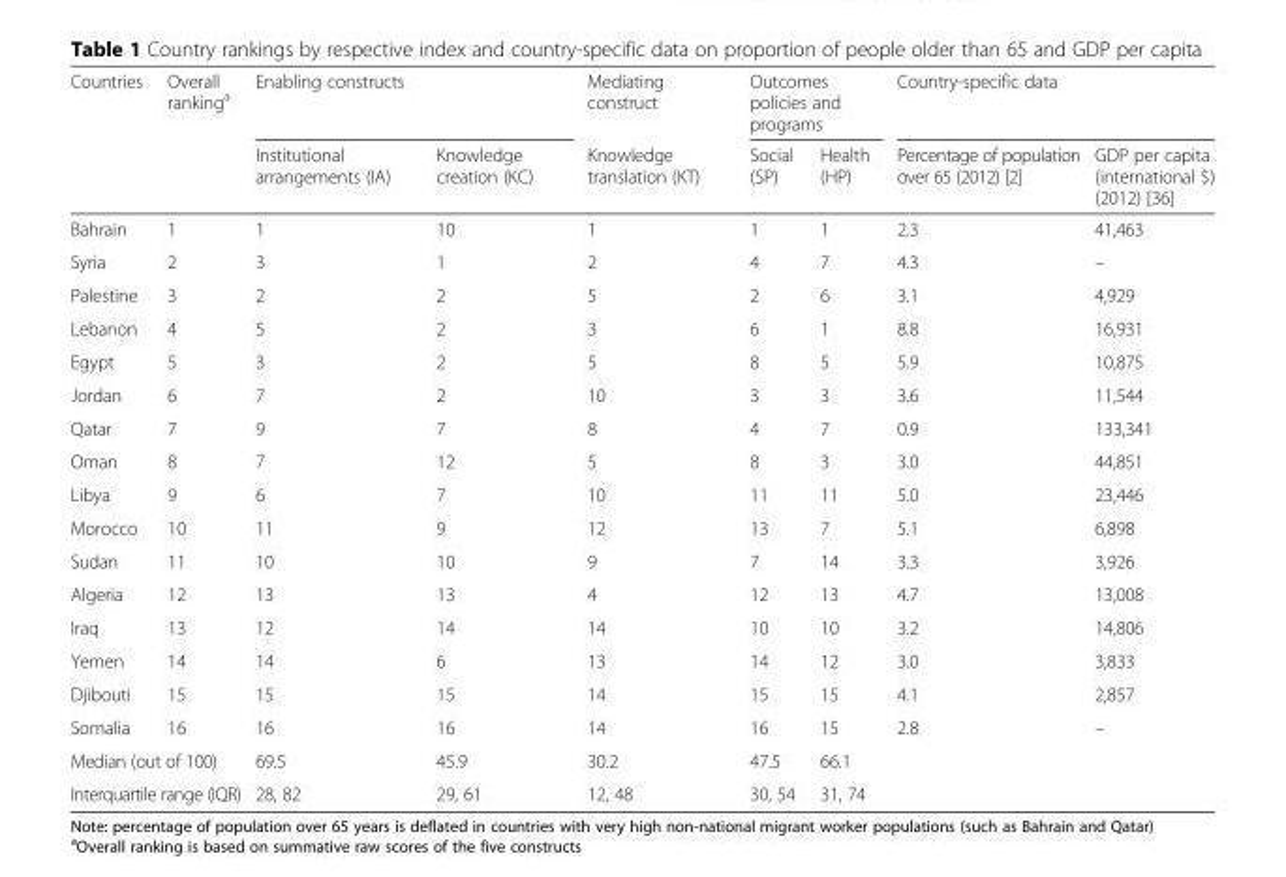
<table><thead><tr><td rowspan="2">Countries</td><td rowspan="2">Overall ranking<sup>a</sup></td><td colspan="2">Enabling constructs</td><td rowspan="2">Mediating construct Knowledge translation (KT)</td><td colspan="2">Outcomes policies and programs</td><td colspan="2">Country-specific data</td></tr><tr><td>Institutional arrangements (IA)</td><td>Knowledge creation (KC)</td><td>Social (SP)</td><td>Health (HP)</td><td>Percentage of population over 65 (2012) [2]</td><td>GDP per capita (international $) (2012) [36]</td></tr></thead><tbody><tr><td>Bahrain</td><td>1</td><td>1</td><td>10</td><td>1</td><td>1</td><td>1</td><td>2.3</td><td>41,463</td></tr><tr><td>Syria</td><td>2</td><td>3</td><td>1</td><td>2</td><td>4</td><td>7</td><td>4.3</td><td>–</td></tr><tr><td>Palestine</td><td>3</td><td>2</td><td>2</td><td>5</td><td>2</td><td>6</td><td>3.1</td><td>4,929</td></tr><tr><td>Lebanon</td><td>4</td><td>5</td><td>2</td><td>3</td><td>6</td><td>1</td><td>8.8</td><td>16,931</td></tr><tr><td>Egypt</td><td>5</td><td>3</td><td>2</td><td>5</td><td>8</td><td>5</td><td>5.9</td><td>10,875</td></tr><tr><td>Jordan</td><td>6</td><td>7</td><td>2</td><td>10</td><td>3</td><td>3</td><td>3.6</td><td>11,544</td></tr><tr><td>Qatar</td><td>7</td><td>9</td><td>7</td><td>8</td><td>4</td><td>7</td><td>0.9</td><td>133,341</td></tr><tr><td>Oman</td><td>8</td><td>7</td><td>12</td><td>5</td><td>8</td><td>3</td><td>3.0</td><td>44,851</td></tr><tr><td>Libya</td><td>9</td><td>6</td><td>7</td><td>10</td><td>11</td><td>11</td><td>5.0</td><td>23,446</td></tr><tr><td>Morocco</td><td>10</td><td>11</td><td>9</td><td>12</td><td>13</td><td>7</td><td>5.1</td><td>6,898</td></tr><tr><td>Sudan</td><td>11</td><td>10</td><td>10</td><td>9</td><td>7</td><td>14</td><td>3.3</td><td>3,926</td></tr><tr><td>Algeria</td><td>12</td><td>13</td><td>13</td><td>4</td><td>12</td><td>13</td><td>4.7</td><td>13,008</td></tr><tr><td>Iraq</td><td>13</td><td>12</td><td>14</td><td>14</td><td>10</td><td>10</td><td>3.2</td><td>14,806</td></tr><tr><td>Yemen</td><td>14</td><td>14</td><td>6</td><td>13</td><td>14</td><td>12</td><td>3.0</td><td>3,833</td></tr><tr><td>Djibouti</td><td>15</td><td>15</td><td>15</td><td>14</td><td>15</td><td>15</td><td>4.1</td><td>2,857</td></tr><tr><td>Somalia</td><td>16</td><td>16</td><td>16</td><td>14</td><td>16</td><td>15</td><td>2.8</td><td>–</td></tr><tr><td colspan="2">Median (out of 100)</td><td>69.5</td><td>45.9</td><td>30.2</td><td>47.5</td><td>66.1</td><td></td><td></td></tr><tr><td colspan="2">Interquartile range (IQR)</td><td>28, 82</td><td>29, 61</td><td>12, 48</td><td>30, 54</td><td>31, 74</td><td></td><td></td></tr></tbody></table>